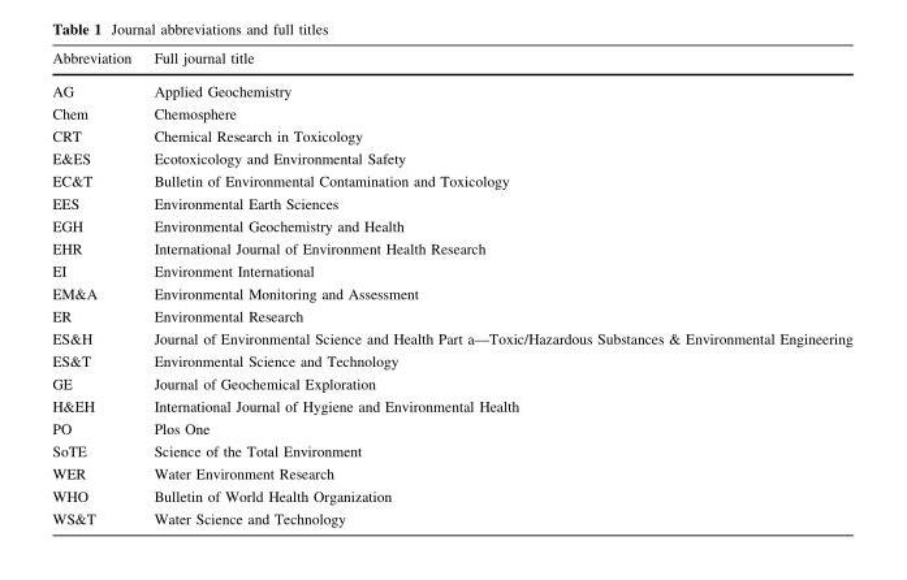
<table><thead><tr><td>Abbreviation</td><td>Full journal title</td></tr></thead><tbody><tr><td>AG</td><td>Applied Geochemistry</td></tr><tr><td>Chem</td><td>Chemosphere</td></tr><tr><td>CRT</td><td>Chemical Research in Toxicology</td></tr><tr><td>E&amp;ES</td><td>Ecotoxicology and Environmental Safety</td></tr><tr><td>EC&amp;T</td><td>Bulletin of Environmental Contamination and Toxicology</td></tr><tr><td>EES</td><td>Environmental Earth Sciences</td></tr><tr><td>EGH</td><td>Environmental Geochemistry and Health</td></tr><tr><td>EHR</td><td>International Journal of Environment Health Research</td></tr><tr><td>EI</td><td>Environment International</td></tr><tr><td>EM&amp;A</td><td>Environmental Monitoring and Assessment</td></tr><tr><td>ER</td><td>Environmental Research</td></tr><tr><td>ES&amp;H</td><td>Journal of Environmental Science and Health Part a—Toxic/Hazardous Substances &amp; Environmental Engineering</td></tr><tr><td>ES&amp;T</td><td>Environmental Science and Technology</td></tr><tr><td>GE</td><td>Journal of Geochemical Exploration</td></tr><tr><td>H&amp;EH</td><td>International Journal of Hygiene and Environmental Health</td></tr><tr><td>PO</td><td>Plos One</td></tr><tr><td>SoTE</td><td>Science of the Total Environment</td></tr><tr><td>WER</td><td>Water Environment Research</td></tr><tr><td>WHO</td><td>Bulletin of World Health Organization</td></tr><tr><td>WS&amp;T</td><td>Water Science and Technology</td></tr></tbody></table>